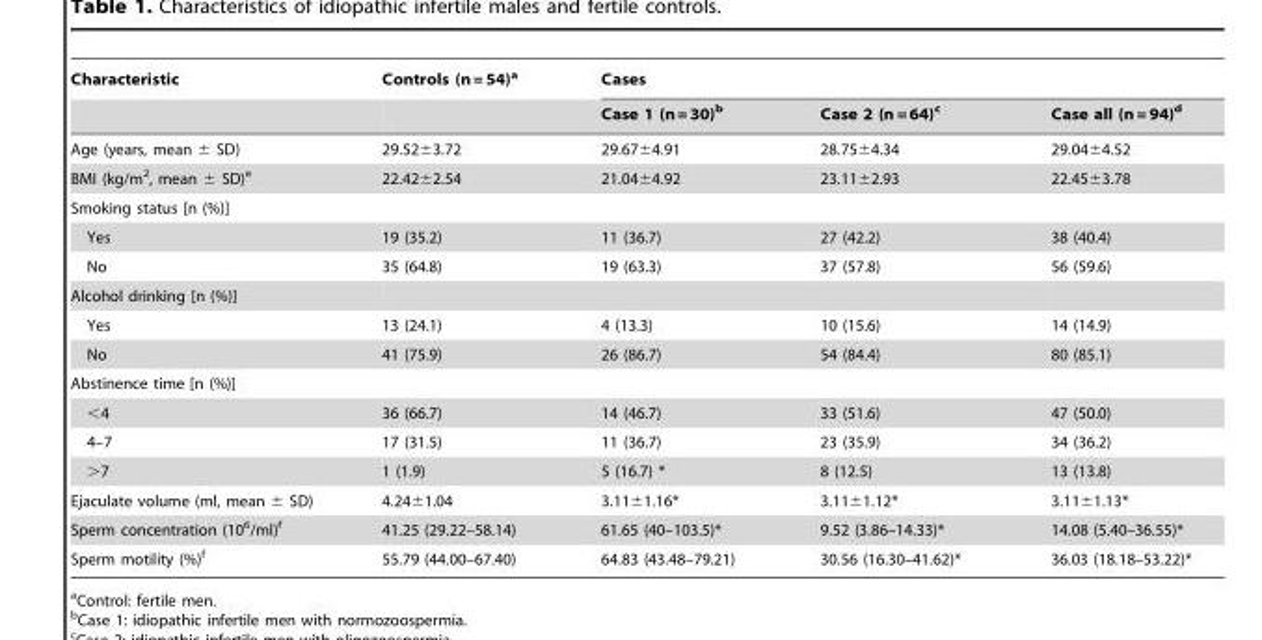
<table><thead><tr><td rowspan="2">Characteristic</td><td rowspan="2">Controls (n = 54)<sup>a</sup></td><td colspan="3">Cases</td></tr><tr><td>Case 1 (n = 30)<sup>b</sup></td><td>Case 2 (n = 64)<sup>c</sup></td><td>Case all (n = 94)<sup>d</sup></td></tr></thead><tbody><tr><td>Age (years, mean ± SD)</td><td>29.52±3.72</td><td>29.67±4.91</td><td>28.75±4.34</td><td>29.04±4.52</td></tr><tr><td>BMI (kg/m<sup>2</sup>, mean ± SD)<sup>e</sup></td><td>22.42±2.54</td><td>21.04±4.92</td><td>23.11±2.93</td><td>22.45±3.78</td></tr><tr><td colspan="5">Smoking status [n (%)]</td></tr><tr><td>Yes</td><td>19 (35.2)</td><td>11 (36.7)</td><td>27 (42.2)</td><td>38 (40.4)</td></tr><tr><td>No</td><td>35 (64.8)</td><td>19 (63.3)</td><td>37 (57.8)</td><td>56 (59.6)</td></tr><tr><td colspan="5">Alcohol drinking [n (%)]</td></tr><tr><td>Yes</td><td>13 (24.1)</td><td>4 (13.3)</td><td>10 (15.6)</td><td>14 (14.9)</td></tr><tr><td>No</td><td>41 (75.9)</td><td>26 (86.7)</td><td>54 (84.4)</td><td>80 (85.1)</td></tr><tr><td colspan="5">Abstinence time [n (%)]</td></tr><tr><td>&lt;4</td><td>36 (66.7)</td><td>14 (46.7)</td><td>33 (51.6)</td><td>47 (50.0)</td></tr><tr><td>4–7</td><td>17 (31.5)</td><td>11 (36.7)</td><td>23 (35.9)</td><td>34 (36.2)</td></tr><tr><td>&gt;7</td><td>1 (1.9)</td><td>5 (16.7) *</td><td>8 (12.5)</td><td>13 (13.8)</td></tr><tr><td>Ejaculate volume (ml, mean ± SD)</td><td>4.24±1.04</td><td>3.11±1.16*</td><td>3.11±1.12*</td><td>3.11±1.13*</td></tr><tr><td>Sperm concentration (10<sup>6</sup>/ml)<sup>f</sup></td><td>41.25 (29.22–58.14)</td><td>61.65 (40–103.5)*</td><td>9.52 (3.86–14.33)*</td><td>14.08 (5.40–36.55)*</td></tr><tr><td>Sperm motility (%)<sup>f</sup></td><td>55.79 (44.00–67.40)</td><td>64.83 (43.48–79.21)</td><td>30.56 (16.30–41.62)*</td><td>36.03 (18.18–53.22)*</td></tr></tbody></table>